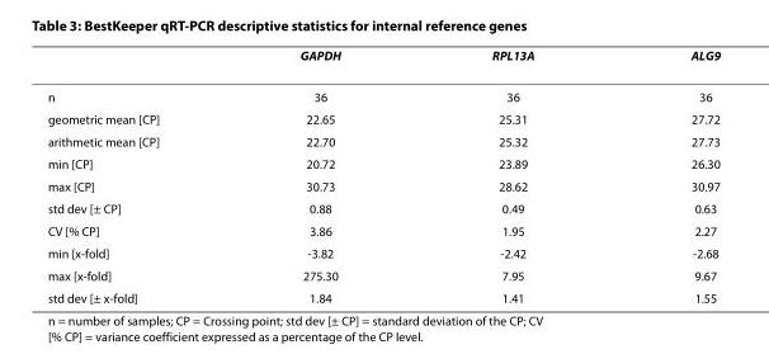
<table><thead><tr><td></td><td>GAPDH</td><td>RPL13A</td><td>ALG9</td></tr></thead><tbody><tr><td>n</td><td>36</td><td>36</td><td>36</td></tr><tr><td>geometric mean [CP]</td><td>22.65</td><td>25.31</td><td>27.72</td></tr><tr><td>arithmetic mean [CP]</td><td>22.70</td><td>25.32</td><td>27.73</td></tr><tr><td>min [CP]</td><td>20.72</td><td>23.89</td><td>26.30</td></tr><tr><td>max [CP]</td><td>30.73</td><td>28.62</td><td>30.97</td></tr><tr><td>std dev [± CP]</td><td>0.88</td><td>0.49</td><td>0.63</td></tr><tr><td>CV [% CP]</td><td>3.86</td><td>1.95</td><td>2.27</td></tr><tr><td>min [x-fold]</td><td>-3.82</td><td>-2.42</td><td>-2.68</td></tr><tr><td>max [x-fold]</td><td>275.30</td><td>7.95</td><td>9.67</td></tr><tr><td>std dev [± x-fold]</td><td>1.84</td><td>1.41</td><td>1.55</td></tr></tbody></table>